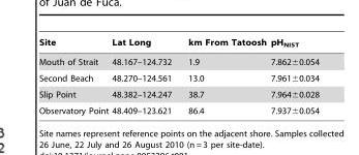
<table><thead><tr><td>Site</td><td>Lat Long</td><td>km From Tatoosh</td><td>pH<sub>NIST</sub></td></tr></thead><tbody><tr><td>Mouth of Strait</td><td>48.167–124.732</td><td>1.9</td><td>7.862±0.054</td></tr><tr><td>Second Beach</td><td>48.270–124.561</td><td>13.0</td><td>7.961±0.034</td></tr><tr><td>Slip Point</td><td>48.382–124.247</td><td>38.7</td><td>7.964±0.028</td></tr><tr><td>Observatory Point</td><td>48.409–123.621</td><td>86.4</td><td>7.937±0.054</td></tr></tbody></table>